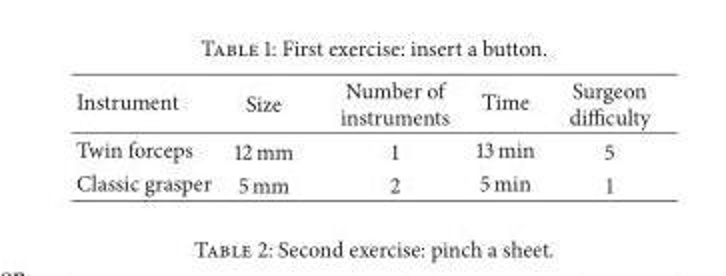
<table><thead><tr><td>Instrument</td><td>Size</td><td>Number of instruments</td><td>Time</td><td>Surgeon difficulty</td></tr></thead><tbody><tr><td>Twin forceps</td><td>12 mm</td><td>1</td><td>13 min</td><td>5</td></tr><tr><td>Classic grasper</td><td>5 mm</td><td>2</td><td>5 min</td><td>1</td></tr></tbody></table>